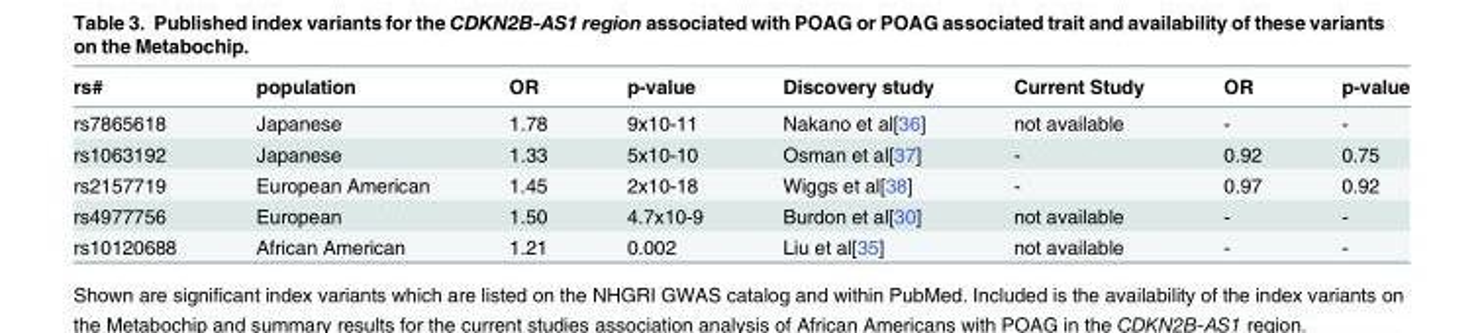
<table><thead><tr><td>rs#</td><td>population</td><td>OR</td><td>p-value</td><td>Discovery study</td><td>Current Study</td><td>OR</td><td>p-value</td></tr></thead><tbody><tr><td>rs7865618</td><td>Japanese</td><td>1.78</td><td>9x10-11</td><td>Nakano et al[36]</td><td>not available</td><td>-</td><td>-</td></tr><tr><td>rs1063192</td><td>Japanese</td><td>1.33</td><td>5x10-10</td><td>Osman et al[37]</td><td>-</td><td>0.92</td><td>0.75</td></tr><tr><td>rs2157719</td><td>European American</td><td>1.45</td><td>2x10-18</td><td>Wiggs et al[38]</td><td>-</td><td>0.97</td><td>0.92</td></tr><tr><td>rs4977756</td><td>European</td><td>1.50</td><td>4.7x10-9</td><td>Burdon et al[30]</td><td>not available</td><td>-</td><td>-</td></tr><tr><td>rs10120688</td><td>African American</td><td>1.21</td><td>0.002</td><td>Liu et al[35]</td><td>not available</td><td>-</td><td>-</td></tr></tbody></table>